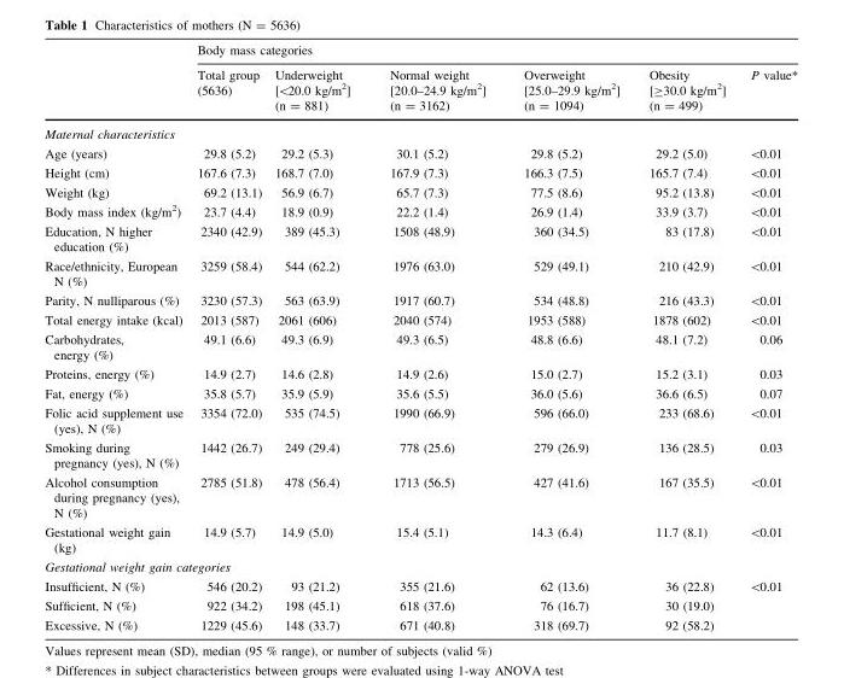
<table><thead><tr><td rowspan="2"></td><td colspan="6">Body mass categories</td></tr><tr><td>Total group (5636)</td><td>Underweight [&lt;20.0 kg/m<sup>2</sup>] (n = 881)</td><td>Normal weight [20.0–24.9 kg/m<sup>2</sup>] (n = 3162)</td><td>Overweight [25.0–29.9 kg/m<sup>2</sup>] (n = 1094)</td><td>Obesity [≥30.0 kg/m<sup>2</sup>] (n = 499)</td><td>P value*</td></tr></thead><tbody><tr><td colspan="7">Maternal characteristics</td></tr><tr><td>Age (years)</td><td>29.8 (5.2)</td><td>29.2 (5.3)</td><td>30.1 (5.2)</td><td>29.8 (5.2)</td><td>29.2 (5.0)</td><td>&lt;0.01</td></tr><tr><td>Height (cm)</td><td>167.6 (7.3)</td><td>168.7 (7.0)</td><td>167.9 (7.3)</td><td>166.3 (7.5)</td><td>165.7 (7.4)</td><td>&lt;0.01</td></tr><tr><td>Weight (kg)</td><td>69.2 (13.1)</td><td>56.9 (6.7)</td><td>65.7 (7.3)</td><td>77.5 (8.6)</td><td>95.2 (13.8)</td><td>&lt;0.01</td></tr><tr><td>Body mass index (kg/m<sup>2</sup>)</td><td>23.7 (4.4)</td><td>18.9 (0.9)</td><td>22.2 (1.4)</td><td>26.9 (1.4)</td><td>33.9 (3.7)</td><td>&lt;0.01</td></tr><tr><td>Education, N higher education (%)</td><td>2340 (42.9)</td><td>389 (45.3)</td><td>1508 (48.9)</td><td>360 (34.5)</td><td>83 (17.8)</td><td>&lt;0.01</td></tr><tr><td>Race/ethnicity, European N (%)</td><td>3259 (58.4)</td><td>544 (62.2)</td><td>1976 (63.0)</td><td>529 (49.1)</td><td>210 (42.9)</td><td>&lt;0.01</td></tr><tr><td>Parity, N nulliparous (%)</td><td>3230 (57.3)</td><td>563 (63.9)</td><td>1917 (60.7)</td><td>534 (48.8)</td><td>216 (43.3)</td><td>&lt;0.01</td></tr><tr><td>Total energy intake (kcal)</td><td>2013 (587)</td><td>2061 (606)</td><td>2040 (574)</td><td>1953 (588)</td><td>1878 (602)</td><td>&lt;0.01</td></tr><tr><td>Carbohydrates, energy (%)</td><td>49.1 (6.6)</td><td>49.3 (6.9)</td><td>49.3 (6.5)</td><td>48.8 (6.6)</td><td>48.1 (7.2)</td><td>0.06</td></tr><tr><td>Proteins, energy (%)</td><td>14.9 (2.7)</td><td>14.6 (2.8)</td><td>14.9 (2.6)</td><td>15.0 (2.7)</td><td>15.2 (3.1)</td><td>0.03</td></tr><tr><td>Fat, energy (%)</td><td>35.8 (5.7)</td><td>35.9 (5.9)</td><td>35.6 (5.5)</td><td>36.0 (5.6)</td><td>36.6 (6.5)</td><td>0.07</td></tr><tr><td>Folic acid supplement use (yes), N (%)</td><td>3354 (72.0)</td><td>535 (74.5)</td><td>1990 (66.9)</td><td>596 (66.0)</td><td>233 (68.6)</td><td>&lt;0.01</td></tr><tr><td>Smoking during pregnancy (yes), N (%)</td><td>1442 (26.7)</td><td>249 (29.4)</td><td>778 (25.6)</td><td>279 (26.9)</td><td>136 (28.5)</td><td>0.03</td></tr><tr><td>Alcohol consumption during pregnancy (yes), N (%)</td><td>2785 (51.8)</td><td>478 (56.4)</td><td>1713 (56.5)</td><td>427 (41.6)</td><td>167 (35.5)</td><td>&lt;0.01</td></tr><tr><td>Gestational weight gain (kg)</td><td>14.9 (5.7)</td><td>14.9 (5.0)</td><td>15.4 (5.1)</td><td>14.3 (6.4)</td><td>11.7 (8.1)</td><td>&lt;0.01</td></tr><tr><td colspan="7">Gestational weight gain categories</td></tr><tr><td>Insufficient, N (%)</td><td>546 (20.2)</td><td>93 (21.2)</td><td>355 (21.6)</td><td>62 (13.6)</td><td>36 (22.8)</td><td>&lt;0.01</td></tr><tr><td>Sufficient, N (%)</td><td>922 (34.2)</td><td>198 (45.1)</td><td>618 (37.6)</td><td>76 (16.7)</td><td>30 (19.0)</td><td></td></tr><tr><td>Excessive, N (%)</td><td>1229 (45.6)</td><td>148 (33.7)</td><td>671 (40.8)</td><td>318 (69.7)</td><td>92 (58.2)</td><td></td></tr></tbody></table>